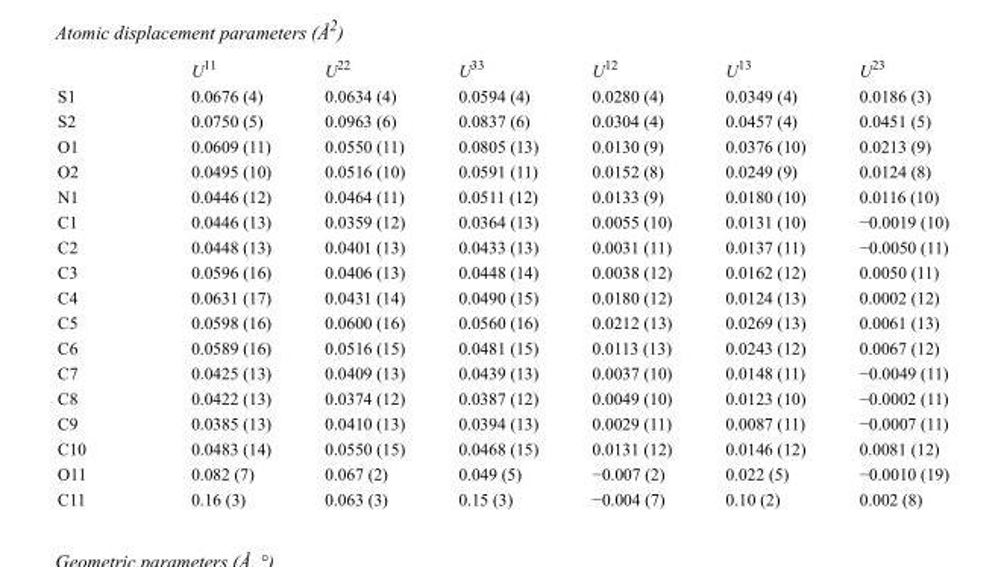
<table><thead><tr><td></td><td>U<sup>11</sup></td><td>U<sup>22</sup></td><td>U<sup>33</sup></td><td>U<sup>12</sup></td><td>U<sup>13</sup></td><td>U<sup>23</sup></td></tr></thead><tbody><tr><td>S1</td><td>0.0676 (4)</td><td>0.0634 (4)</td><td>0.0594 (4)</td><td>0.0280 (4)</td><td>0.0349 (4)</td><td>0.0186 (3)</td></tr><tr><td>S2</td><td>0.0750 (5)</td><td>0.0963 (6)</td><td>0.0837 (6)</td><td>0.0304 (4)</td><td>0.0457 (4)</td><td>0.0451 (5)</td></tr><tr><td>O1</td><td>0.0609 (11)</td><td>0.0550 (11)</td><td>0.0805 (13)</td><td>0.0130 (9)</td><td>0.0376 (10)</td><td>0.0213 (9)</td></tr><tr><td>O2</td><td>0.0495 (10)</td><td>0.0516 (10)</td><td>0.0591 (11)</td><td>0.0152 (8)</td><td>0.0249 (9)</td><td>0.0124 (8)</td></tr><tr><td>N1</td><td>0.0446 (12)</td><td>0.0464 (11)</td><td>0.0511 (12)</td><td>0.0133 (9)</td><td>0.0180 (10)</td><td>0.0116 (10)</td></tr><tr><td>C1</td><td>0.0446 (13)</td><td>0.0359 (12)</td><td>0.0364 (13)</td><td>0.0055 (10)</td><td>0.0131 (10)</td><td>−0.0019 (10)</td></tr><tr><td>C2</td><td>0.0448 (13)</td><td>0.0401 (13)</td><td>0.0433 (13)</td><td>0.0031 (11)</td><td>0.0137 (11)</td><td>−0.0050 (11)</td></tr><tr><td>C3</td><td>0.0596 (16)</td><td>0.0406 (13)</td><td>0.0448 (14)</td><td>0.0038 (12)</td><td>0.0162 (12)</td><td>0.0050 (11)</td></tr><tr><td>C4</td><td>0.0631 (17)</td><td>0.0431 (14)</td><td>0.0490 (15)</td><td>0.0180 (12)</td><td>0.0124 (13)</td><td>0.0002 (12)</td></tr><tr><td>C5</td><td>0.0598 (16)</td><td>0.0600 (16)</td><td>0.0560 (16)</td><td>0.0212 (13)</td><td>0.0269 (13)</td><td>0.0061 (13)</td></tr><tr><td>C6</td><td>0.0589 (16)</td><td>0.0516 (15)</td><td>0.0481 (15)</td><td>0.0113 (13)</td><td>0.0243 (12)</td><td>0.0067 (12)</td></tr><tr><td>C7</td><td>0.0425 (13)</td><td>0.0409 (13)</td><td>0.0439 (13)</td><td>0.0037 (10)</td><td>0.0148 (11)</td><td>−0.0049 (11)</td></tr><tr><td>C8</td><td>0.0422 (13)</td><td>0.0374 (12)</td><td>0.0387 (12)</td><td>0.0049 (10)</td><td>0.0123 (10)</td><td>−0.0002 (11)</td></tr><tr><td>C9</td><td>0.0385 (13)</td><td>0.0410 (13)</td><td>0.0394 (13)</td><td>0.0029 (11)</td><td>0.0087 (11)</td><td>−0.0007 (11)</td></tr><tr><td>C10</td><td>0.0483 (14)</td><td>0.0550 (15)</td><td>0.0468 (15)</td><td>0.0131 (12)</td><td>0.0146 (12)</td><td>0.0081 (12)</td></tr><tr><td>O11</td><td>0.082 (7)</td><td>0.067 (2)</td><td>0.049 (5)</td><td>−0.007 (2)</td><td>0.022 (5)</td><td>−0.0010 (19)</td></tr><tr><td>C11</td><td>0.16 (3)</td><td>0.063 (3)</td><td>0.15 (3)</td><td>−0.004 (7)</td><td>0.10 (2)</td><td>0.002 (8)</td></tr></tbody></table>